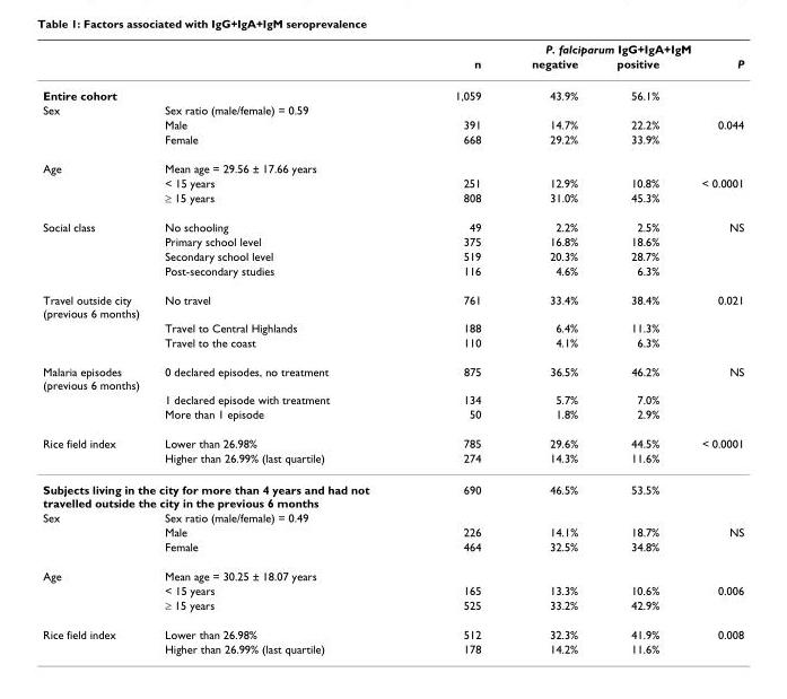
<table><thead><tr><td rowspan="2"></td><td rowspan="2"></td><td rowspan="2">n</td><td colspan="3">P. falciparum IgG+IgA+IgM</td></tr><tr><td>negative</td><td>positive</td><td>P</td></tr></thead><tbody><tr><td>Entire cohort</td><td></td><td>1,059</td><td>43.9%</td><td>56.1%</td><td></td></tr><tr><td rowspan="3">Sex</td><td>Sex ratio (male/female) = 0.59</td><td></td><td></td><td></td><td></td></tr><tr><td>Male</td><td>391</td><td>14.7%</td><td>22.2%</td><td>0.044</td></tr><tr><td>Female</td><td>668</td><td>29.2%</td><td>33.9%</td><td></td></tr><tr><td rowspan="3">Age</td><td>Mean age = 29.56 ± 17.66 years</td><td></td><td></td><td></td><td></td></tr><tr><td>&lt; 15 years</td><td>251</td><td>12.9%</td><td>10.8%</td><td>&lt; 0.0001</td></tr><tr><td>≥ 15 years</td><td>808</td><td>31.0%</td><td>45.3%</td><td></td></tr><tr><td rowspan="4">Social class</td><td>No schooling</td><td>49</td><td>2.2%</td><td>2.5%</td><td>NS</td></tr><tr><td>Primary school level</td><td>375</td><td>16.8%</td><td>18.6%</td><td></td></tr><tr><td>Secondary school level</td><td>519</td><td>20.3%</td><td>28.7%</td><td></td></tr><tr><td>Post-secondary studies</td><td>116</td><td>4.6%</td><td>6.3%</td><td></td></tr><tr><td rowspan="3">Travel outside city (previous 6 months)</td><td>No travel</td><td>761</td><td>33.4%</td><td>38.4%</td><td>0.021</td></tr><tr><td>Travel to Central Highlands</td><td>188</td><td>6.4%</td><td>11.3%</td><td></td></tr><tr><td>Travel to the coast</td><td>110</td><td>4.1%</td><td>6.3%</td><td></td></tr><tr><td rowspan="3">Malaria episodes (previous 6 months)</td><td>0 declared episodes, no treatment</td><td>875</td><td>36.5%</td><td>46.2%</td><td>NS</td></tr><tr><td>1 declared episode with treatment</td><td>134</td><td>5.7%</td><td>7.0%</td><td></td></tr><tr><td>More than 1 episode</td><td>50</td><td>1.8%</td><td>2.9%</td><td></td></tr><tr><td rowspan="2">Rice field index</td><td>Lower than 26.98%</td><td>785</td><td>29.6%</td><td>44.5%</td><td>&lt; 0.0001</td></tr><tr><td>Higher than 26.99% (last quartile)</td><td>274</td><td>14.3%</td><td>11.6%</td><td></td></tr><tr><td colspan="2">Subjects living in the city for more than 4 years and had not travelled outside the city in the previous 6 months</td><td>690</td><td>46.5%</td><td>53.5%</td><td></td></tr><tr><td rowspan="3">Sex</td><td>Sex ratio (male/female) = 0.49</td><td></td><td></td><td></td><td></td></tr><tr><td>Male</td><td>226</td><td>14.1%</td><td>18.7%</td><td>NS</td></tr><tr><td>Female</td><td>464</td><td>32.5%</td><td>34.8%</td><td></td></tr><tr><td rowspan="3">Age</td><td>Mean age = 30.25 ± 18.07 years</td><td></td><td></td><td></td><td></td></tr><tr><td>&lt; 15 years</td><td>165</td><td>13.3%</td><td>10.6%</td><td>0.006</td></tr><tr><td>≥ 15 years</td><td>525</td><td>33.2%</td><td>42.9%</td><td></td></tr><tr><td rowspan="2">Rice field index</td><td>Lower than 26.98%</td><td>512</td><td>32.3%</td><td>41.9%</td><td>0.008</td></tr><tr><td>Higher than 26.99% (last quartile)</td><td>178</td><td>14.2%</td><td>11.6%</td><td></td></tr></tbody></table>